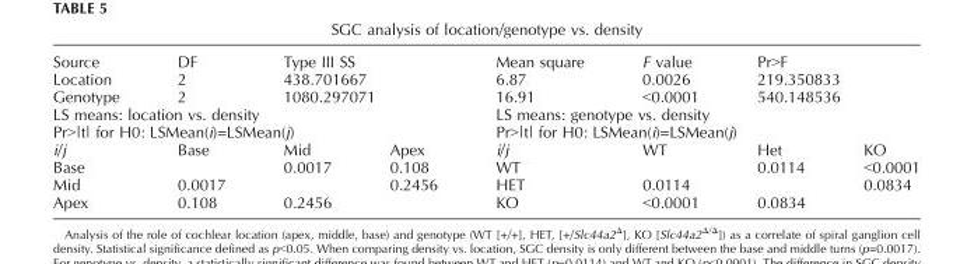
<table><tbody><tr><td>Source</td><td>DF</td><td colspan="2">Type III SS</td><td>Mean square</td><td>F value</td><td colspan="2">Pr&gt;F</td></tr><tr><td>Location</td><td>2</td><td colspan="2">438.701667</td><td>6.87</td><td>0.0026</td><td colspan="2">219.350833</td></tr><tr><td>Genotype</td><td>2</td><td colspan="2">1080.297071</td><td>16.91</td><td>&lt;0.0001</td><td colspan="2">540.148536</td></tr><tr><td colspan="4">LS means: location vs. density</td><td colspan="4">LS means: genotype vs. density</td></tr><tr><td colspan="4">Pr&gt;|t| for H0: LSMean(i)=LSMean(j)</td><td colspan="4">Pr&gt;|t| for H0: LSMean(i)=LSMean(j)</td></tr><tr><td>i/j</td><td>Base</td><td>Mid</td><td>Apex</td><td>i/j</td><td>WT</td><td>Het</td><td>KO</td></tr><tr><td>Base</td><td></td><td>0.0017</td><td>0.108</td><td>WT</td><td></td><td>0.0114</td><td>&lt;0.0001</td></tr><tr><td>Mid</td><td>0.0017</td><td></td><td>0.2456</td><td>HET</td><td>0.0114</td><td></td><td>0.0834</td></tr><tr><td>Apex</td><td>0.108</td><td>0.2456</td><td></td><td>KO</td><td>&lt;0.0001</td><td>0.0834</td><td></td></tr></tbody></table>